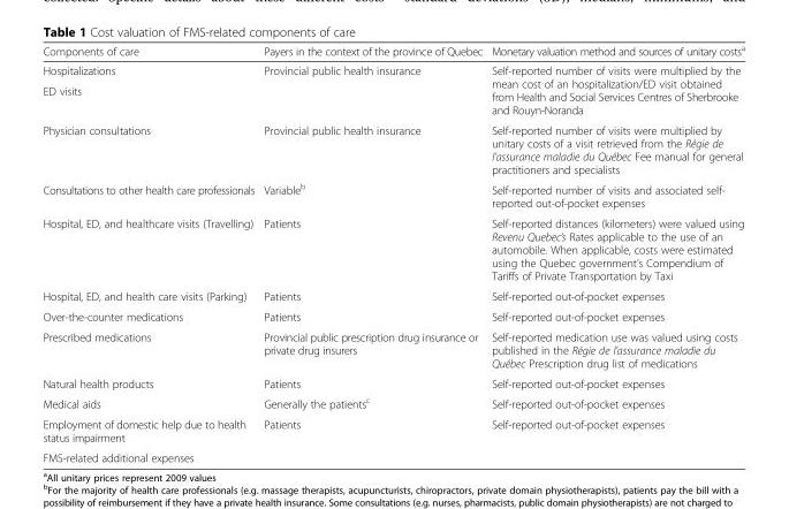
<table><thead><tr><td>Components of care</td><td>Payers in the context of the province of Quebec</td><td>Monetary valuation method and sources of unitary costs<sup>a</sup></td></tr></thead><tbody><tr><td>Hospitalizations</td><td rowspan="2">Provincial public health insurance</td><td rowspan="2">Self-reported number of visits were multiplied by the mean cost of an hospitalization/ED visit obtained from Health and Social Services Centres of Sherbrooke and Rouyn-Noranda</td></tr><tr><td>ED visits</td></tr><tr><td>Physician consultations</td><td>Provincial public health insurance</td><td>Self-reported number of visits were multiplied by unitary costs of a visit retrieved from the Régie de l’assurance maladie du Québec Fee manual for general practitioners and specialists</td></tr><tr><td>Consultations to other health care professionals</td><td>Variable<sup>b</sup></td><td>Self-reported number of visits and associated self- reported out-of-pocket expenses</td></tr><tr><td>Hospital, ED, and healthcare visits (Travelling)</td><td>Patients</td><td>Self-reported distances (kilometers) were valued using Revenu Quebec’s Rates applicable to the use of an automobile. When applicable, costs were estimated using the Quebec government’s Compendium of Tariffs of Private Transportation by Taxi</td></tr><tr><td>Hospital, ED, and health care visits (Parking)</td><td>Patients</td><td>Self-reported out-of-pocket expenses</td></tr><tr><td>Over-the-counter medications</td><td>Patients</td><td>Self-reported out-of-pocket expenses</td></tr><tr><td>Prescribed medications</td><td>Provincial public prescription drug insurance or private drug insurers</td><td>Self-reported medication use was valued using costs published in the Régie de l’assurance maladie du Québec Prescription drug list of medications</td></tr><tr><td>Natural health products</td><td>Patients</td><td>Self-reported out-of-pocket expenses</td></tr><tr><td>Medical aids</td><td>Generally the patients<sup>c</sup></td><td>Self-reported out-of-pocket expenses</td></tr><tr><td>Employment of domestic help due to health status impairment</td><td rowspan="2">Patients</td><td rowspan="2">Self-reported out-of-pocket expenses</td></tr><tr><td>FMS-related additional expenses</td></tr></tbody></table>